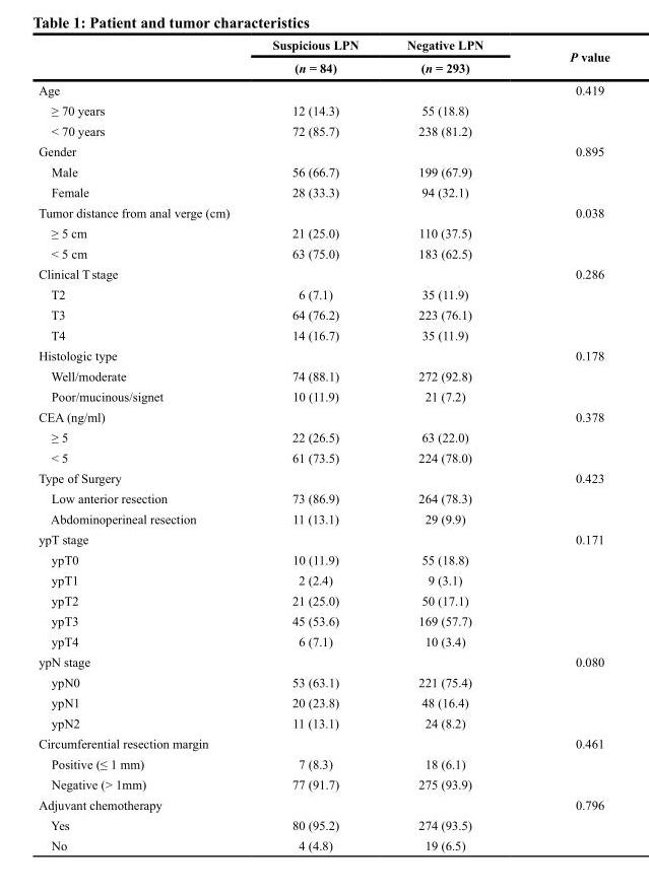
<table><thead><tr><td rowspan="2"></td><td rowspan="2">Suspicious LPN (n = 84)</td><td rowspan="2">Negative LPN (n = 293)</td><td rowspan="2">P value</td></tr><tr></tr></thead><tbody><tr><td>Age</td><td></td><td></td><td>0.419</td></tr><tr><td>≥ 70 years</td><td>12 (14.3)</td><td>55 (18.8)</td><td></td></tr><tr><td>&lt; 70 years</td><td>72 (85.7)</td><td>238 (81.2)</td><td></td></tr><tr><td>Gender</td><td></td><td></td><td>0.895</td></tr><tr><td>Male</td><td>56 (66.7)</td><td>199 (67.9)</td><td></td></tr><tr><td>Female</td><td>28 (33.3)</td><td>94 (32.1)</td><td></td></tr><tr><td>Tumor distance from anal verge (cm)</td><td></td><td></td><td>0.038</td></tr><tr><td>≥ 5 cm</td><td>21 (25.0)</td><td>110 (37.5)</td><td></td></tr><tr><td>&lt; 5 cm</td><td>63 (75.0)</td><td>183 (62.5)</td><td></td></tr><tr><td>Clinical T stage</td><td></td><td></td><td>0.286</td></tr><tr><td>T2</td><td>6 (7.1)</td><td>35 (11.9)</td><td></td></tr><tr><td>T3</td><td>64 (76.2)</td><td>223 (76.1)</td><td></td></tr><tr><td>T4</td><td>14 (16.7)</td><td>35 (11.9)</td><td></td></tr><tr><td>Histologic type</td><td></td><td></td><td>0.178</td></tr><tr><td>Well/moderate</td><td>74 (88.1)</td><td>272 (92.8)</td><td></td></tr><tr><td>Poor/mucinous/signet</td><td>10 (11.9)</td><td>21 (7.2)</td><td></td></tr><tr><td>CEA (ng/ml)</td><td></td><td></td><td>0.378</td></tr><tr><td>≥ 5</td><td>22 (26.5)</td><td>63 (22.0)</td><td></td></tr><tr><td>&lt; 5</td><td>61 (73.5)</td><td>224 (78.0)</td><td></td></tr><tr><td>Type of Surgery</td><td></td><td></td><td>0.423</td></tr><tr><td>Low anterior resection</td><td>73 (86.9)</td><td>264 (78.3)</td><td></td></tr><tr><td>Abdominoperineal resection</td><td>11 (13.1)</td><td>29 (9.9)</td><td></td></tr><tr><td>ypT stage</td><td></td><td></td><td>0.171</td></tr><tr><td>ypT0</td><td>10 (11.9)</td><td>55 (18.8)</td><td></td></tr><tr><td>ypT1</td><td>2 (2.4)</td><td>9 (3.1)</td><td></td></tr><tr><td>ypT2</td><td>21 (25.0)</td><td>50 (17.1)</td><td></td></tr><tr><td>ypT3</td><td>45 (53.6)</td><td>169 (57.7)</td><td></td></tr><tr><td>ypT4</td><td>6 (7.1)</td><td>10 (3.4)</td><td></td></tr><tr><td>ypN stage</td><td></td><td></td><td>0.080</td></tr><tr><td>ypN0</td><td>53 (63.1)</td><td>221 (75.4)</td><td></td></tr><tr><td>ypN1</td><td>20 (23.8)</td><td>48 (16.4)</td><td></td></tr><tr><td>ypN2</td><td>11 (13.1)</td><td>24 (8.2)</td><td></td></tr><tr><td>Circumferential resection margin</td><td></td><td></td><td>0.461</td></tr><tr><td>Positive (≤ 1 mm)</td><td>7 (8.3)</td><td>18 (6.1)</td><td></td></tr><tr><td>Negative (&gt; 1mm)</td><td>77 (91.7)</td><td>275 (93.9)</td><td></td></tr><tr><td>Adjuvant chemotherapy</td><td></td><td></td><td>0.796</td></tr><tr><td>Yes</td><td>80 (95.2)</td><td>274 (93.5)</td><td></td></tr><tr><td>No</td><td>4 (4.8)</td><td>19 (6.5)</td><td></td></tr></tbody></table>